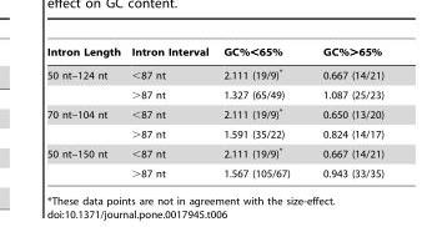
<table><thead><tr><td>Intron Length</td><td>Intron Interval</td><td>GC%&lt;65%</td><td>GC%&gt;65%</td></tr></thead><tbody><tr><td rowspan="2">50 nt–124 nt</td><td>&lt;87 nt</td><td>2.111 (19/9)*</td><td>0.667 (14/21)</td></tr><tr><td>&gt;87 nt</td><td>1.327 (65/49)</td><td>1.087 (25/23)</td></tr><tr><td rowspan="2">70 nt–104 nt</td><td>&lt;87 nt</td><td>2.111 (19/9)*</td><td>0.650 (13/20)</td></tr><tr><td>&gt;87 nt</td><td>1.591 (35/22)</td><td>0.824 (14/17)</td></tr><tr><td rowspan="2">50 nt–150 nt</td><td>&lt;87 nt</td><td>2.111 (19/9)*</td><td>0.667 (14/21)</td></tr><tr><td>&gt;87 nt</td><td>1.567 (105/67)</td><td>0.943 (33/35)</td></tr></tbody></table>